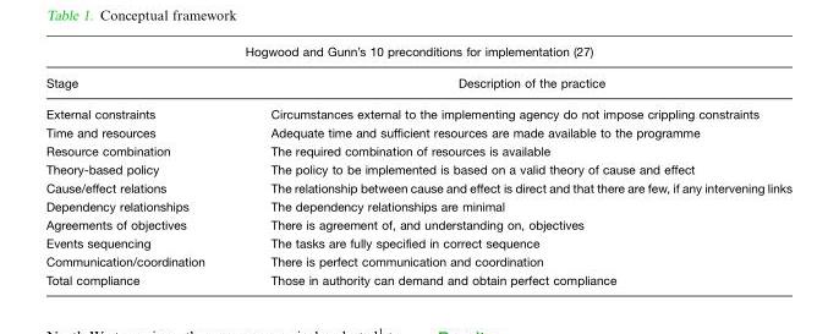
<table><thead><tr><td colspan="2">Hogwood and Gunn’s 10 preconditions for implementation (27)</td></tr><tr><td>Stage</td><td>Description of the practice</td></tr></thead><tbody><tr><td>External constraints</td><td>Circumstances external to the implementing agency do not impose crippling constraints</td></tr><tr><td>Time and resources</td><td>Adequate time and sufficient resources are made available to the programme</td></tr><tr><td>Resource combination</td><td>The required combination of resources is available</td></tr><tr><td>Theory-based policy</td><td>The policy to be implemented is based on a valid theory of cause and effect</td></tr><tr><td>Cause/effect relations</td><td>The relationship between cause and effect is direct and that there are few, if any intervening links</td></tr><tr><td>Dependency relationships</td><td>The dependency relationships are minimal</td></tr><tr><td>Agreements of objectives</td><td>There is agreement of, and understanding on, objectives</td></tr><tr><td>Events sequencing</td><td>The tasks are fully specified in correct sequence</td></tr><tr><td>Communication/coordination</td><td>There is perfect communication and coordination</td></tr><tr><td>Total compliance</td><td>Those in authority can demand and obtain perfect compliance</td></tr></tbody></table>